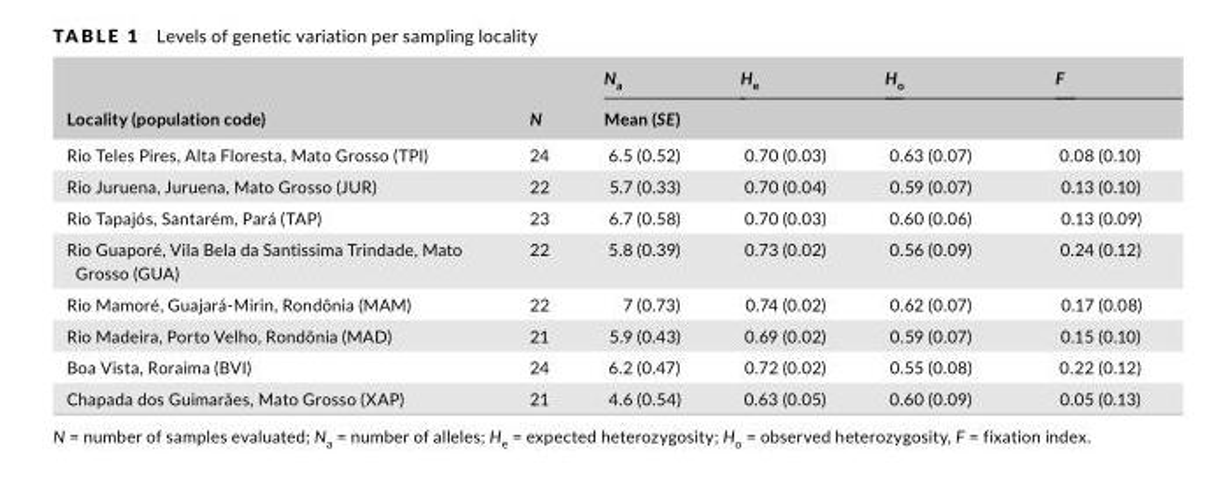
<table><thead><tr><td rowspan="2">Locality (population code)</td><td rowspan="2">N</td><td>N<sub>a</sub></td><td>H<sub>e</sub></td><td>H<sub>o</sub></td><td>F</td></tr><tr><td colspan="4">Mean (SE)</td></tr></thead><tbody><tr><td>Rio Teles Pires, Alta Floresta, Mato Grosso (TPI)</td><td>24</td><td>6.5 (0.52)</td><td>0.70 (0.03)</td><td>0.63 (0.07)</td><td>0.08 (0.10)</td></tr><tr><td>Rio Juruena, Juruena, Mato Grosso (JUR)</td><td>22</td><td>5.7 (0.33)</td><td>0.70 (0.04)</td><td>0.59 (0.07)</td><td>0.13 (0.10)</td></tr><tr><td>Rio Tapajós, Santarém, Pará (TAP)</td><td>23</td><td>6.7 (0.58)</td><td>0.70 (0.03)</td><td>0.60 (0.06)</td><td>0.13 (0.09)</td></tr><tr><td>Rio Guaporé, Vila Bela da Santissima Trindade, Mato Grosso (GUA)</td><td>22</td><td>5.8 (0.39)</td><td>0.73 (0.02)</td><td>0.56 (0.09)</td><td>0.24 (0.12)</td></tr><tr><td>Rio Mamoré, Guajará- Mirin, Rondônia (MAM)</td><td>22</td><td>7 (0.73)</td><td>0.74 (0.02)</td><td>0.62 (0.07)</td><td>0.17 (0.08)</td></tr><tr><td>Rio Madeira, Porto Velho, Rondônia (MAD)</td><td>21</td><td>5.9 (0.43)</td><td>0.69 (0.02)</td><td>0.59 (0.07)</td><td>0.15 (0.10)</td></tr><tr><td>Boa Vista, Roraima (BVI)</td><td>24</td><td>6.2 (0.47)</td><td>0.72 (0.02)</td><td>0.55 (0.08)</td><td>0.22 (0.12)</td></tr><tr><td>Chapada dos Guimarães, Mato Grosso (XAP)</td><td>21</td><td>4.6 (0.54)</td><td>0.63 (0.05)</td><td>0.60 (0.09)</td><td>0.05 (0.13)</td></tr></tbody></table>